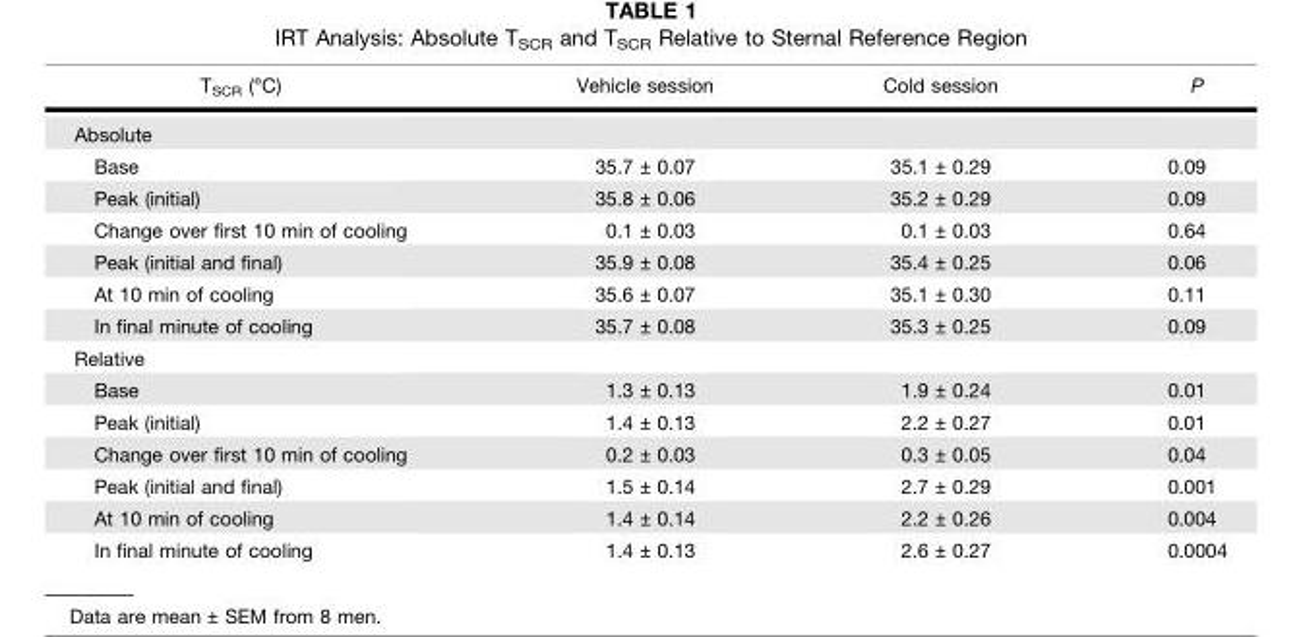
<table><thead><tr><td>T<sub>SCR</sub> (°C)</td><td>Vehicle session</td><td>Cold session</td><td>P</td></tr></thead><tbody><tr><td colspan="4">Absolute</td></tr><tr><td>Base</td><td>35.7 ± 0.07</td><td>35.1 ± 0.29</td><td>0.09</td></tr><tr><td>Peak (initial)</td><td>35.8 ± 0.06</td><td>35.2 ± 0.29</td><td>0.09</td></tr><tr><td>Change over first 10 min of cooling</td><td>0.1 ± 0.03</td><td>0.1 ± 0.03</td><td>0.64</td></tr><tr><td>Peak (initial and final)</td><td>35.9 ± 0.08</td><td>35.4 ± 0.25</td><td>0.06</td></tr><tr><td>At 10 min of cooling</td><td>35.6 ± 0.07</td><td>35.1 ± 0.30</td><td>0.11</td></tr><tr><td>In final minute of cooling</td><td>35.7 ± 0.08</td><td>35.3 ± 0.25</td><td>0.09</td></tr><tr><td colspan="4">Relative</td></tr><tr><td>Base</td><td>1.3 ± 0.13</td><td>1.9 ± 0.24</td><td>0.01</td></tr><tr><td>Peak (initial)</td><td>1.4 ± 0.13</td><td>2.2 ± 0.27</td><td>0.01</td></tr><tr><td>Change over first 10 min of cooling</td><td>0.2 ± 0.03</td><td>0.3 ± 0.05</td><td>0.04</td></tr><tr><td>Peak (initial and final)</td><td>1.5 ± 0.14</td><td>2.7 ± 0.29</td><td>0.001</td></tr><tr><td>At 10 min of cooling</td><td>1.4 ± 0.14</td><td>2.2 ± 0.26</td><td>0.004</td></tr><tr><td>In final minute of cooling</td><td>1.4 ± 0.13</td><td>2.6 ± 0.27</td><td>0.0004</td></tr></tbody></table>